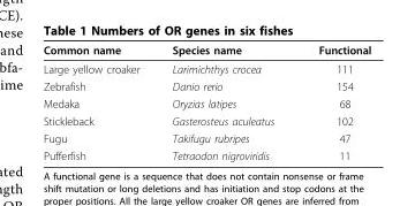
<table><thead><tr><td>Common name</td><td>Species name</td><td>Functional</td></tr></thead><tbody><tr><td>Large yellow croaker</td><td>Larimichthys crocea</td><td>111</td></tr><tr><td>Zebrafish</td><td>Danio rerio</td><td>154</td></tr><tr><td>Medaka</td><td>Oryzias latipes</td><td>68</td></tr><tr><td>Stickleback</td><td>Gasterosteus aculeatus</td><td>102</td></tr><tr><td>Fugu</td><td>Takifugu rubripes</td><td>47</td></tr><tr><td>Pufferfish</td><td>Tetraodon nigroviridis</td><td>11</td></tr></tbody></table>